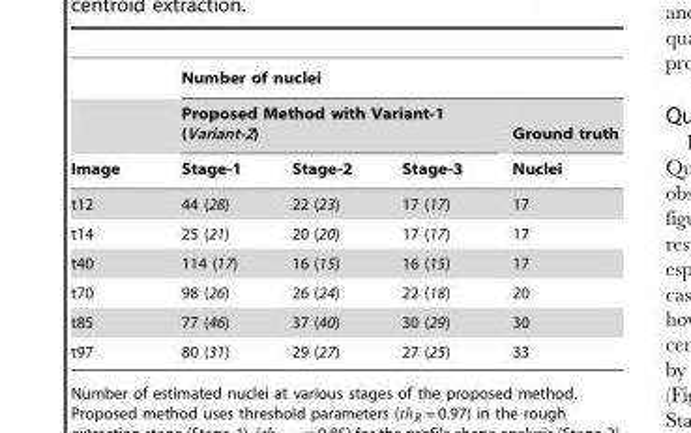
<table><thead><tr><td rowspan="3">Image</td><td colspan="4">Number of nuclei</td></tr><tr><td colspan="3">Proposed Method with Variant-1 (Variant-2)</td><td rowspan="2">Ground truth Nuclei</td></tr><tr><td>Stage-1</td><td>Stage-2</td><td>Stage-3</td></tr></thead><tbody><tr><td>t12</td><td>44 (28)</td><td>22 (23)</td><td>17 (17)</td><td>17</td></tr><tr><td>t14</td><td>25 (21)</td><td>20 (20)</td><td>17 (17)</td><td>17</td></tr><tr><td>t40</td><td>114 (17)</td><td>16 (15)</td><td>16 (15)</td><td>17</td></tr><tr><td>t70</td><td>98 (26)</td><td>26 (24)</td><td>22 (18)</td><td>20</td></tr><tr><td>t85</td><td>77 (46)</td><td>37 (40)</td><td>30 (29)</td><td>30</td></tr><tr><td>t97</td><td>80 (31)</td><td>29 (27)</td><td>27 (25)</td><td>33</td></tr></tbody></table>